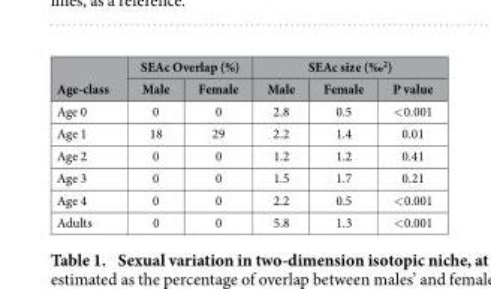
<table><thead><tr><td rowspan="2">Age-class</td><td colspan="2">SEAc Overlap (%)</td><td colspan="3">SEAc size (‰<sup>2</sup>)</td></tr><tr><td>Male</td><td>Female</td><td>Male</td><td>Female</td><td>P value</td></tr></thead><tbody><tr><td>Age 0</td><td>0</td><td>0</td><td>2.8</td><td>0.5</td><td>&lt; 0.001</td></tr><tr><td>Age 1</td><td>18</td><td>29</td><td>2.2</td><td>1.4</td><td>0.01</td></tr><tr><td>Age 2</td><td>0</td><td>0</td><td>1.2</td><td>1.2</td><td>0.41</td></tr><tr><td>Age 3</td><td>0</td><td>0</td><td>1.5</td><td>1.7</td><td>0.21</td></tr><tr><td>Age 4</td><td>0</td><td>0</td><td>2.2</td><td>0.5</td><td>&lt; 0.001</td></tr><tr><td>Adults</td><td>0</td><td>0</td><td>5.8</td><td>1.3</td><td>&lt; 0.001</td></tr></tbody></table>